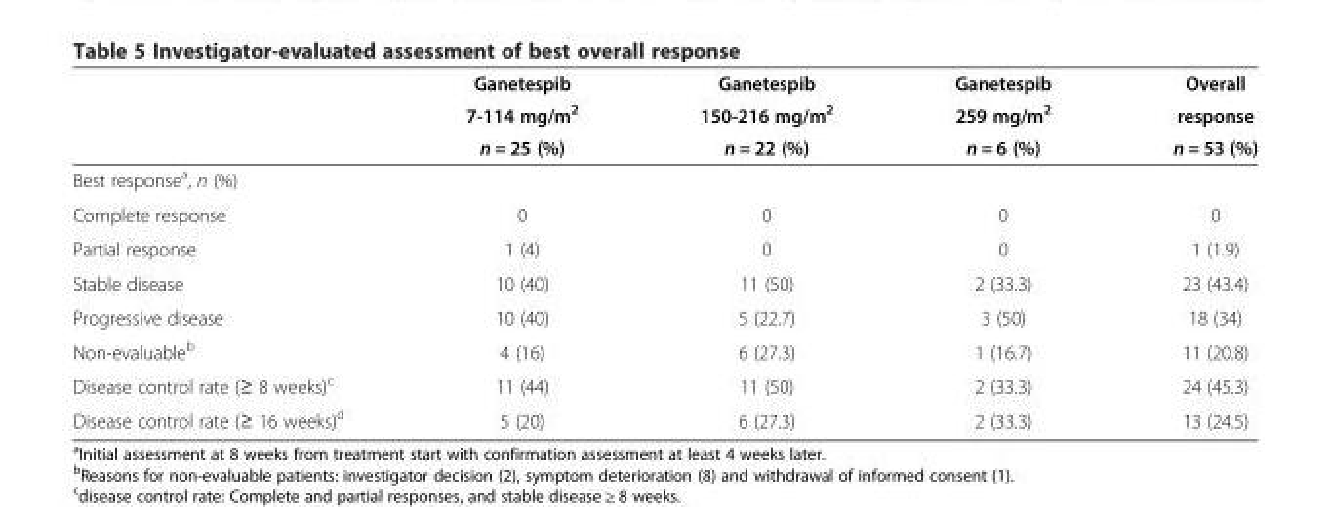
<table><thead><tr><td rowspan="3"></td><td rowspan="3">Ganetespib 7-114 mg/m<sup>2</sup> n = 25 (%)</td><td rowspan="3">Ganetespib 150-216 mg/m<sup>2</sup> n = 22 (%)</td><td rowspan="3">Ganetespib 259 mg/m<sup>2</sup> n = 6 (%)</td><td rowspan="3">Overall response n = 53 (%)</td></tr><tr></tr><tr></tr></thead><tbody><tr><td colspan="5">Best response<sup>a</sup>, n (%)</td></tr><tr><td>Complete response</td><td>0</td><td>0</td><td>0</td><td>0</td></tr><tr><td>Partial response</td><td>1 (4)</td><td>0</td><td>0</td><td>1 (1.9)</td></tr><tr><td>Stable disease</td><td>10 (40)</td><td>11 (50)</td><td>2 (33.3)</td><td>23 (43.4)</td></tr><tr><td>Progressive disease</td><td>10 (40)</td><td>5 (22.7)</td><td>3 (50)</td><td>18 (34)</td></tr><tr><td>Non-evaluable<sup>b</sup></td><td>4 (16)</td><td>6 (27.3)</td><td>1 (16.7)</td><td>11 (20.8)</td></tr><tr><td>Disease control rate (≥ 8 weeks)<sup>c</sup></td><td>11 (44)</td><td>11 (50)</td><td>2 (33.3)</td><td>24 (45.3)</td></tr><tr><td>Disease control rate (≥ 16 weeks)<sup>d</sup></td><td>5 (20)</td><td>6 (27.3)</td><td>2 (33.3)</td><td>13 (24.5)</td></tr></tbody></table>